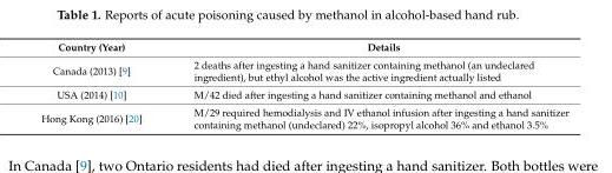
<table><thead><tr><td>Country (Year)</td><td>Details</td></tr></thead><tbody><tr><td>Canada (2013) [9]</td><td>2 deaths after ingesting a hand sanitizer containing methanol (an undeclared ingredient), but ethyl alcohol was the active ingredient actually listed</td></tr><tr><td>USA (2014) [10]</td><td>M/42 died after ingesting a hand sanitizer containing methanol and ethanol</td></tr><tr><td>Hong Kong (2016) [20]</td><td>M/29 required hemodialysis and IV ethanol infusion after ingesting a hand sanitizer containing methanol (undeclared) 22%, isopropyl alcohol 36% and ethanol 3.5%</td></tr></tbody></table>